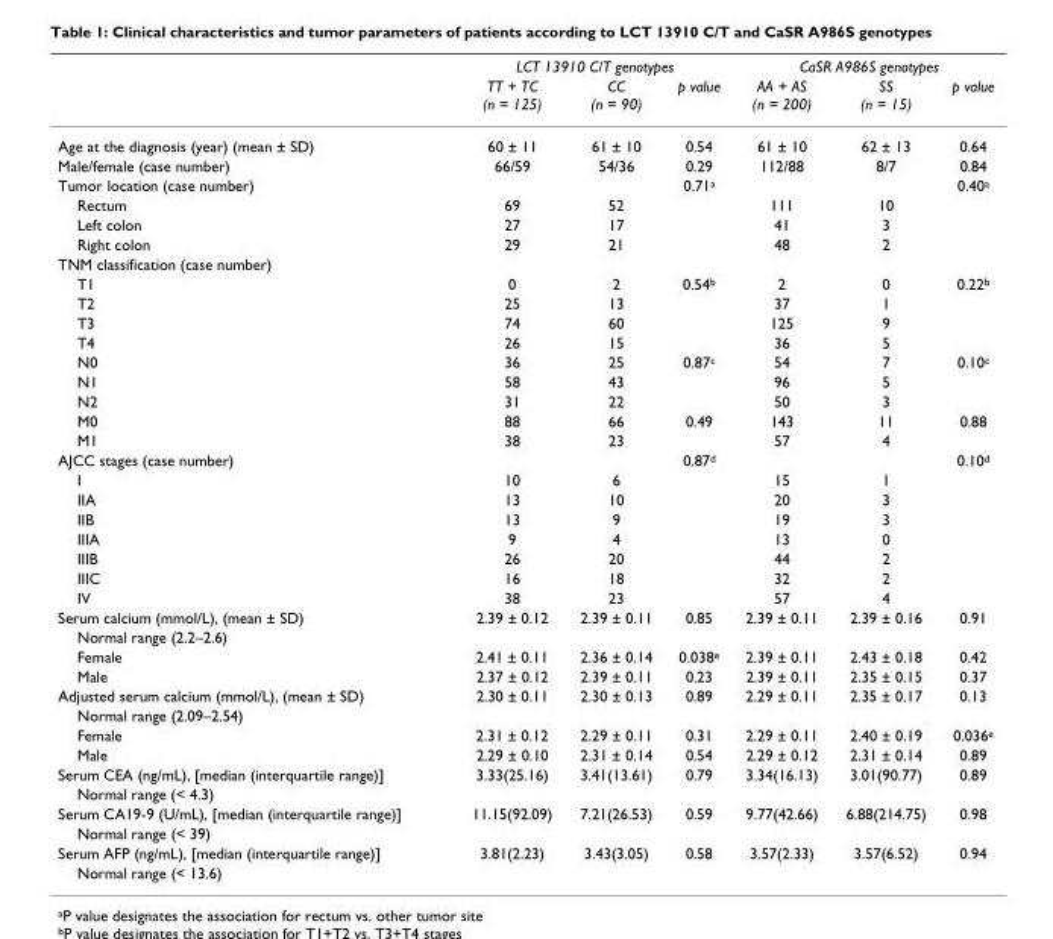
<table><thead><tr><td rowspan="2"></td><td colspan="3">LCT 13910 C/T genotypes</td><td colspan="3">CaSR A986S genotypes</td></tr><tr><td>TT + TC (n = 125)</td><td>CC (n = 90)</td><td>p value</td><td>AA + AS (n = 200)</td><td>SS (n = 15)</td><td>p value</td></tr></thead><tbody><tr><td>Age at the diagnosis (year) (mean ± SD)</td><td>60 ± 11</td><td>61 ± 10</td><td>0.54</td><td>61 ± 10</td><td>62 ± 13</td><td>0.64</td></tr><tr><td>Male/female (case number)</td><td>66/59</td><td>54/36</td><td>0.29</td><td>112/88</td><td>8/7</td><td>0.84</td></tr><tr><td>Tumor location (case number)</td><td></td><td></td><td>0.71<sup>a</sup></td><td></td><td></td><td>0.40<sup>a</sup></td></tr><tr><td>Rectum</td><td>69</td><td>52</td><td></td><td>111</td><td>10</td><td></td></tr><tr><td>Left colon</td><td>27</td><td>17</td><td></td><td>41</td><td>3</td><td></td></tr><tr><td>Right colon</td><td>29</td><td>21</td><td></td><td>48</td><td>2</td><td></td></tr><tr><td colspan="7">TNM classification (case number)</td></tr><tr><td>T1</td><td>0</td><td>2</td><td>0.54<sup>b</sup></td><td>2</td><td>0</td><td>0.22<sup>b</sup></td></tr><tr><td>T2</td><td>25</td><td>13</td><td></td><td>37</td><td>1</td><td></td></tr><tr><td>T3</td><td>74</td><td>60</td><td></td><td>125</td><td>9</td><td></td></tr><tr><td>T4</td><td>26</td><td>15</td><td></td><td>36</td><td>5</td><td></td></tr><tr><td>N0</td><td>36</td><td>25</td><td>0.87<sup>c</sup></td><td>54</td><td>7</td><td>0.10<sup>c</sup></td></tr><tr><td>N1</td><td>58</td><td>43</td><td></td><td>96</td><td>5</td><td></td></tr><tr><td>N2</td><td>31</td><td>22</td><td></td><td>50</td><td>3</td><td></td></tr><tr><td>M0</td><td>88</td><td>66</td><td>0.49</td><td>143</td><td>11</td><td>0.88</td></tr><tr><td>M1</td><td>38</td><td>23</td><td></td><td>57</td><td>4</td><td></td></tr><tr><td>AJCC stages (case number)</td><td></td><td></td><td>0.87<sup>d</sup></td><td></td><td></td><td>0.10<sup>d</sup></td></tr><tr><td>I</td><td>10</td><td>6</td><td></td><td>15</td><td>1</td><td></td></tr><tr><td>IIA</td><td>13</td><td>10</td><td></td><td>20</td><td>3</td><td></td></tr><tr><td>IIB</td><td>13</td><td>9</td><td></td><td>19</td><td>3</td><td></td></tr><tr><td>IIIA</td><td>9</td><td>4</td><td></td><td>13</td><td>0</td><td></td></tr><tr><td>IIIB</td><td>26</td><td>20</td><td></td><td>44</td><td>2</td><td></td></tr><tr><td>IIIC</td><td>16</td><td>18</td><td></td><td>32</td><td>2</td><td></td></tr><tr><td>IV</td><td>38</td><td>23</td><td></td><td>57</td><td>4</td><td></td></tr><tr><td>Serum calcium (mmol/L), (mean ± SD)</td><td>2.39 ± 0.12</td><td>2.39 ± 0.11</td><td>0.85</td><td>2.39 ± 0.11</td><td>2.39 ± 0.16</td><td>0.91</td></tr><tr><td colspan="7">Normal range (2.2–2.6)</td></tr><tr><td>Female</td><td>2.41 ± 0.11</td><td>2.36 ± 0.14</td><td>0.038<sup>e</sup></td><td>2.39 ± 0.11</td><td>2.43 ± 0.18</td><td>0.42</td></tr><tr><td>Male</td><td>2.37 ± 0.12</td><td>2.39 ± 0.11</td><td>0.23</td><td>2.39 ± 0.11</td><td>2.35 ± 0.15</td><td>0.37</td></tr><tr><td>Adjusted serum calcium (mmol/L), (mean ± SD)</td><td>2.30 ± 0.11</td><td>2.30 ± 0.13</td><td>0.89</td><td>2.29 ± 0.11</td><td>2.35 ± 0.17</td><td>0.13</td></tr><tr><td colspan="7">Normal range (2.09–2.54)</td></tr><tr><td>Female</td><td>2.31 ± 0.12</td><td>2.29 ± 0.11</td><td>0.31</td><td>2.29 ± 0.11</td><td>2.40 ± 0.19</td><td>0.036<sup>e</sup></td></tr><tr><td>Male</td><td>2.29 ± 0.10</td><td>2.31 ± 0.14</td><td>0.54</td><td>2.29 ± 0.12</td><td>2.31 ± 0.14</td><td>0.89</td></tr><tr><td>Serum CEA (ng/mL), [median (interquartile range)]</td><td>3.33(25.16)</td><td>3.41(13.61)</td><td>0.79</td><td>3.34(16.13)</td><td>3.01(90.77)</td><td>0.89</td></tr><tr><td colspan="7">Normal range (&lt; 4.3)</td></tr><tr><td>Serum CA19-9 (U/mL), [median (interquartile range)]</td><td>11.15(92.09)</td><td>7.21(26.53)</td><td>0.59</td><td>9.77(42.66)</td><td>6.88(214.75)</td><td>0.98</td></tr><tr><td colspan="7">Normal range (&lt; 39)</td></tr><tr><td>Serum AFP (ng/mL), [median (interquartile range)]</td><td>3.81(2.23)</td><td>3.43(3.05)</td><td>0.58</td><td>3.57(2.33)</td><td>3.57(6.52)</td><td>0.94</td></tr><tr><td>Normal range (&lt; 13.6)</td><td></td><td></td><td></td><td></td><td></td><td></td></tr></tbody></table>